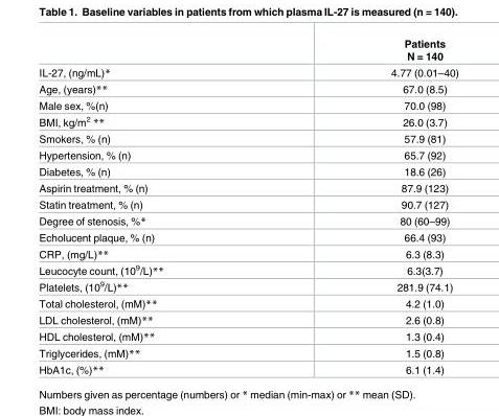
<table><thead><tr><td></td><td>Patients N = 140</td></tr></thead><tbody><tr><td>IL-27, (ng/mL)*</td><td>4.77 (0.01–40)</td></tr><tr><td>Age, (years)**</td><td>67.0 (8.5)</td></tr><tr><td>Male sex, %(n)</td><td>70.0 (98)</td></tr><tr><td>BMI, kg/m<sup>2</sup> **</td><td>26.0 (3.7)</td></tr><tr><td>Smokers, % (n)</td><td>57.9 (81)</td></tr><tr><td>Hypertension, % (n)</td><td>65.7 (92)</td></tr><tr><td>Diabetes, % (n)</td><td>18.6 (26)</td></tr><tr><td>Aspirin treatment, % (n)</td><td>87.9 (123)</td></tr><tr><td>Statin treatment, % (n)</td><td>90.7 (127)</td></tr><tr><td>Degree of stenosis, %*</td><td>80 (60–99)</td></tr><tr><td>Echolucent plaque, % (n)</td><td>66.4 (93)</td></tr><tr><td>CRP, (mg/L)**</td><td>6.3 (8.3)</td></tr><tr><td>Leucocyte count, (10<sup>9</sup>/L)**</td><td>6.3(3.7)</td></tr><tr><td>Platelets, (10<sup>9</sup>/L)**</td><td>281.9 (74.1)</td></tr><tr><td>Total cholesterol, (mM)**</td><td>4.2 (1.0)</td></tr><tr><td>LDL cholesterol, (mM)**</td><td>2.6 (0.8)</td></tr><tr><td>HDL cholesterol, (mM)**</td><td>1.3 (0.4)</td></tr><tr><td>Triglycerides, (mM)**</td><td>1.5 (0.8)</td></tr><tr><td>HbA1c, (%)**</td><td>6.1 (1.4)</td></tr></tbody></table>